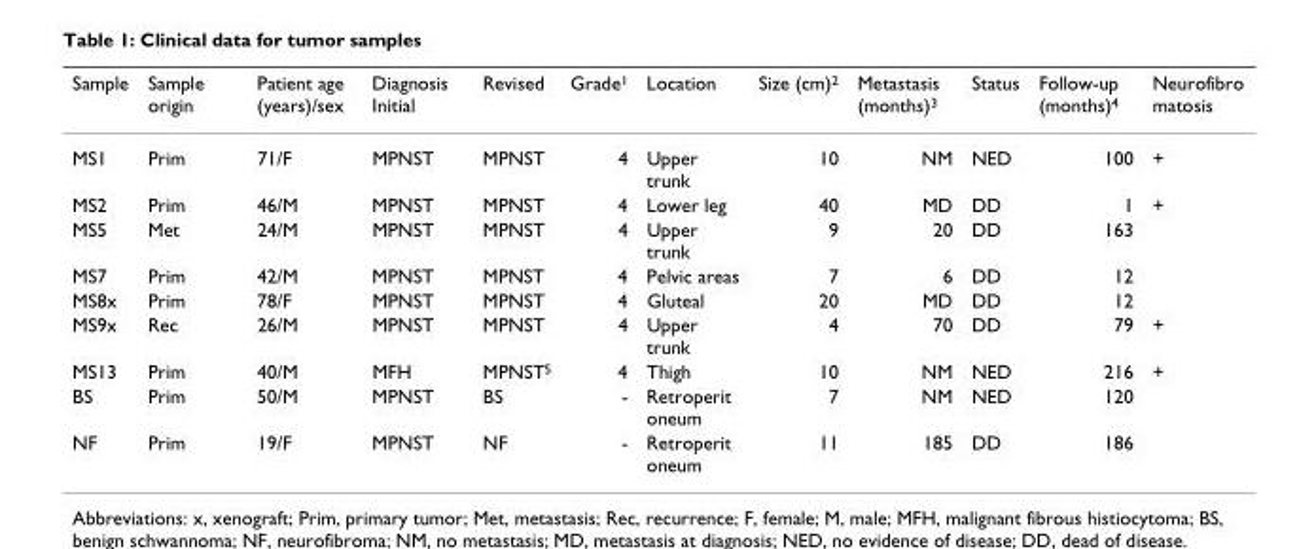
<table><thead><tr><td>Sample</td><td>Sample origin</td><td>Patient age (years)/sex</td><td>Diagnosis Initial</td><td>Revised</td><td>Grade<sup>1</sup></td><td>Location</td><td>Size (cm)<sup>2</sup></td><td>Metastasis (months)<sup>3</sup></td><td>Status</td><td>Follow-up (months)<sup>4</sup></td><td>Neurofibro matosis</td></tr></thead><tbody><tr><td>MS1</td><td>Prim</td><td>71/F</td><td>MPNST</td><td>MPNST</td><td>4</td><td>Upper trunk</td><td>10</td><td>NM</td><td>NED</td><td>100</td><td>+</td></tr><tr><td>MS2</td><td>Prim</td><td>46/M</td><td>MPNST</td><td>MPNST</td><td>4</td><td>Lower leg</td><td>40</td><td>MD</td><td>DD</td><td>1</td><td>+</td></tr><tr><td>MS5</td><td>Met</td><td>24/M</td><td>MPNST</td><td>MPNST</td><td>4</td><td>Upper trunk</td><td>9</td><td>20</td><td>DD</td><td>163</td><td></td></tr><tr><td>MS7</td><td>Prim</td><td>42/M</td><td>MPNST</td><td>MPNST</td><td>4</td><td>Pelvic areas</td><td>7</td><td>6</td><td>DD</td><td>12</td><td></td></tr><tr><td>MS8x</td><td>Prim</td><td>78/F</td><td>MPNST</td><td>MPNST</td><td>4</td><td>Gluteal</td><td>20</td><td>MD</td><td>DD</td><td>12</td><td></td></tr><tr><td>MS9x</td><td>Rec</td><td>26/M</td><td>MPNST</td><td>MPNST</td><td>4</td><td>Upper trunk</td><td>4</td><td>70</td><td>DD</td><td>79</td><td>+</td></tr><tr><td>MS13</td><td>Prim</td><td>40/M</td><td>MFH</td><td>MPNST<sup>5</sup></td><td>4</td><td>Thigh</td><td>10</td><td>NM</td><td>NED</td><td>216</td><td>+</td></tr><tr><td>BS</td><td>Prim</td><td>50/M</td><td>MPNST</td><td>BS</td><td>-</td><td>Retroperit oneum</td><td>7</td><td>NM</td><td>NED</td><td>120</td><td></td></tr><tr><td>NF</td><td>Prim</td><td>19/F</td><td>MPNST</td><td>NF</td><td>-</td><td>Retroperit oneum</td><td>11</td><td>185</td><td>DD</td><td>186</td><td></td></tr></tbody></table>